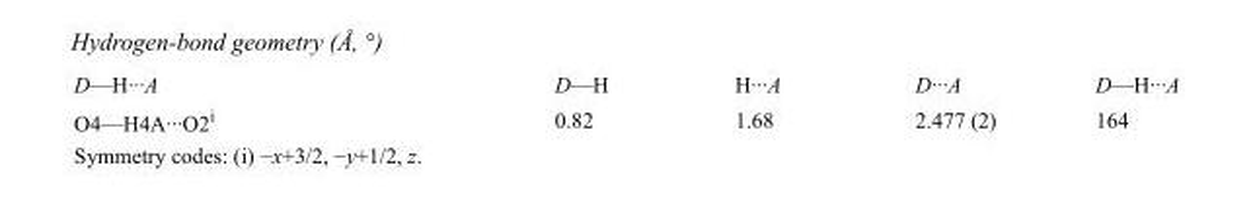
<table><tbody><tr><td>D—H···A</td><td>D—H</td><td>H···A</td><td>D···A</td><td>D—H···A</td></tr><tr><td>O4—H4A···O2<sup>i</sup></td><td>0.82</td><td>1.68</td><td>2.477 (2)</td><td>164</td></tr></tbody></table>